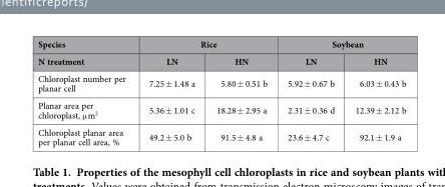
<table><thead><tr><td rowspan="2">Species N treatment</td><td colspan="2">Rice</td><td colspan="2">Soybean</td></tr><tr><td>LN</td><td>HN</td><td>LN</td><td>HN</td></tr></thead><tbody><tr><td>Chloroplast number per planar cell</td><td>7.25 ± 1.48 a</td><td>5.80 ± 0.51 b</td><td>5.92 ± 0.67 b</td><td>6.03 ± 0.43 b</td></tr><tr><td>Planar area per chloroplast, μ m<sup>2</sup></td><td>5.36 ± 1.01 c</td><td>18.28 ± 2.95 a</td><td>2.31 ± 0.36 d</td><td>12.39 ± 2.12 b</td></tr><tr><td>Chloroplast planar area per planar cell area, %</td><td>49.2 ± 5.0 b</td><td>91.5 ± 4.8 a</td><td>23.6 ± 4.7 c</td><td>92.1 ± 1.9 a</td></tr></tbody></table>